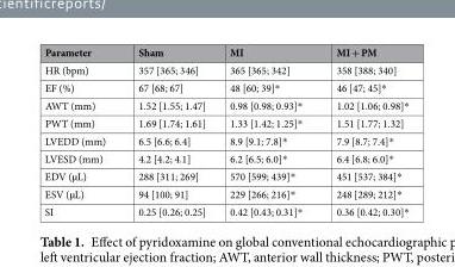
<table><thead><tr><td>Parameter</td><td>Sham</td><td>MI</td><td>MI + PM</td></tr></thead><tbody><tr><td>HR (bpm)</td><td>357 [365; 346]</td><td>365 [365; 342]</td><td>358 [388; 340]</td></tr><tr><td>EF (%)</td><td>67 [68; 67]</td><td>48 [60; 39]*</td><td>46 [47; 45]*</td></tr><tr><td>AWT (mm)</td><td>1.52 [1.55; 1.47]</td><td>0.98 [0.98; 0.93]*</td><td>1.02 [1.06; 0.98]*</td></tr><tr><td>PWT (mm)</td><td>1.69 [1.74; 1.61]</td><td>1.33 [1.42; 1.25]*</td><td>1.51 [1.77; 1.32]</td></tr><tr><td>LVEDD (mm)</td><td>6.5 [6.6; 6.4]</td><td>8.9 [9.1; 7.8]*</td><td>7.9 [8.7; 7.4]*</td></tr><tr><td>LVESD (mm)</td><td>4.2 [4.2; 4.1]</td><td>6.2 [6.5; 6.0]*</td><td>6.4 [6.8; 6.0]*</td></tr><tr><td>EDV (µL)</td><td>288 [311; 269]</td><td>570 [599; 439]*</td><td>451 [537; 384]*</td></tr><tr><td>ESV (µL)</td><td>94 [100; 91]</td><td>229 [266; 216]*</td><td>248 [289; 212]*</td></tr><tr><td>SI</td><td>0.25 [0.26; 0.25]</td><td>0.42 [0.43; 0.31]*</td><td>0.36 [0.42; 0.30]*</td></tr></tbody></table>